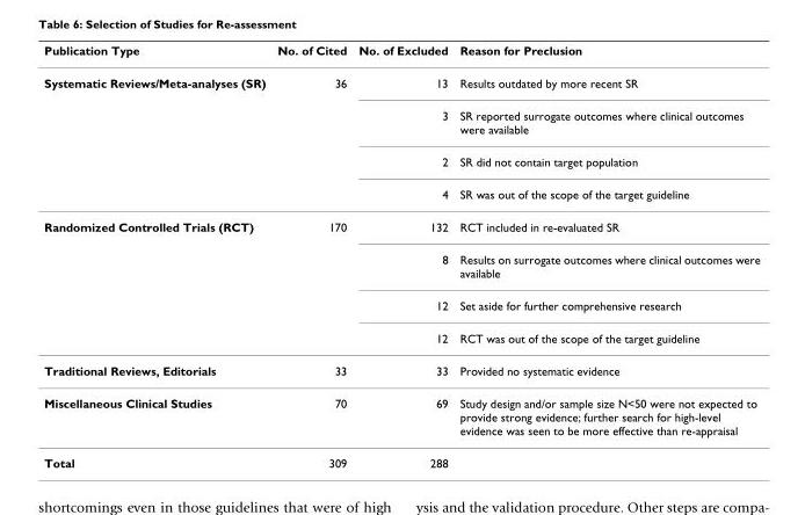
<table><thead><tr><td>Publication Type</td><td>No. of Cited</td><td>No. of Excluded</td><td>Reason for Preclusion</td></tr></thead><tbody><tr><td rowspan="4">Systematic Reviews/Meta-analyses (SR)</td><td>36</td><td>13</td><td>Results outdated by more recent SR</td></tr><tr><td></td><td>3</td><td>SR reported surrogate outcomes where clinical outcomes were available</td></tr><tr><td></td><td>2</td><td>SR did not contain target population</td></tr><tr><td></td><td>4</td><td>SR was out of the scope of the target guideline</td></tr><tr><td rowspan="4">Randomized Controlled Trials (RCT)</td><td>170</td><td>132</td><td>RCT included in re-evaluated SR</td></tr><tr><td></td><td>8</td><td>Results on surrogate outcomes where clinical outcomes were available</td></tr><tr><td></td><td>12</td><td>Set aside for further comprehensive research</td></tr><tr><td></td><td>12</td><td>RCT was out of the scope of the target guideline</td></tr><tr><td>Traditional Reviews, Editorials</td><td>33</td><td>33</td><td>Provided no systematic evidence</td></tr><tr><td>Miscellaneous Clinical Studies</td><td>70</td><td>69</td><td>Study design and/or sample size N&lt;50 were not expected to provide strong evidence; further search for high-level evidence was seen to be more effective than re-appraisal</td></tr><tr><td>Total</td><td>309</td><td>288</td><td></td></tr></tbody></table>